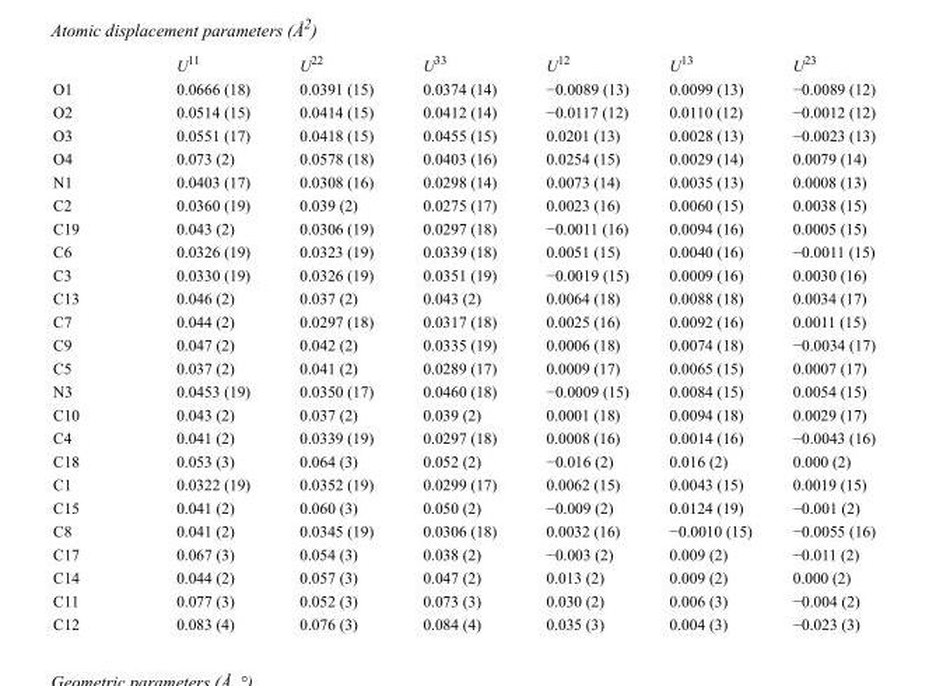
<table><thead><tr><td></td><td>U<sup>11</sup></td><td>U<sup>22</sup></td><td>U<sup>33</sup></td><td>U<sup>12</sup></td><td>U<sup>13</sup></td><td>U<sup>23</sup></td></tr></thead><tbody><tr><td>O1</td><td>0.0666 (18)</td><td>0.0391 (15)</td><td>0.0374 (14)</td><td>−0.0089 (13)</td><td>0.0099 (13)</td><td>−0.0089 (12)</td></tr><tr><td>O2</td><td>0.0514 (15)</td><td>0.0414 (15)</td><td>0.0412 (14)</td><td>−0.0117 (12)</td><td>0.0110 (12)</td><td>−0.0012 (12)</td></tr><tr><td>O3</td><td>0.0551 (17)</td><td>0.0418 (15)</td><td>0.0455 (15)</td><td>0.0201 (13)</td><td>0.0028 (13)</td><td>−0.0023 (13)</td></tr><tr><td>O4</td><td>0.073 (2)</td><td>0.0578 (18)</td><td>0.0403 (16)</td><td>0.0254 (15)</td><td>0.0029 (14)</td><td>0.0079 (14)</td></tr><tr><td>N1</td><td>0.0403 (17)</td><td>0.0308 (16)</td><td>0.0298 (14)</td><td>0.0073 (14)</td><td>0.0035 (13)</td><td>0.0008 (13)</td></tr><tr><td>C2</td><td>0.0360 (19)</td><td>0.039 (2)</td><td>0.0275 (17)</td><td>0.0023 (16)</td><td>0.0060 (15)</td><td>0.0038 (15)</td></tr><tr><td>C19</td><td>0.043 (2)</td><td>0.0306 (19)</td><td>0.0297 (18)</td><td>−0.0011 (16)</td><td>0.0094 (16)</td><td>0.0005 (15)</td></tr><tr><td>C6</td><td>0.0326 (19)</td><td>0.0323 (19)</td><td>0.0339 (18)</td><td>0.0051 (15)</td><td>0.0040 (16)</td><td>−0.0011 (15)</td></tr><tr><td>C3</td><td>0.0330 (19)</td><td>0.0326 (19)</td><td>0.0351 (19)</td><td>−0.0019 (15)</td><td>0.0009 (16)</td><td>0.0030 (16)</td></tr><tr><td>C13</td><td>0.046 (2)</td><td>0.037 (2)</td><td>0.043 (2)</td><td>0.0064 (18)</td><td>0.0088 (18)</td><td>0.0034 (17)</td></tr><tr><td>C7</td><td>0.044 (2)</td><td>0.0297 (18)</td><td>0.0317 (18)</td><td>0.0025 (16)</td><td>0.0092 (16)</td><td>0.0011 (15)</td></tr><tr><td>C9</td><td>0.047 (2)</td><td>0.042 (2)</td><td>0.0335 (19)</td><td>0.0006 (18)</td><td>0.0074 (18)</td><td>−0.0034 (17)</td></tr><tr><td>C5</td><td>0.037 (2)</td><td>0.041 (2)</td><td>0.0289 (17)</td><td>0.0009 (17)</td><td>0.0065 (15)</td><td>0.0007 (17)</td></tr><tr><td>N3</td><td>0.0453 (19)</td><td>0.0350 (17)</td><td>0.0460 (18)</td><td>−0.0009 (15)</td><td>0.0084 (15)</td><td>0.0054 (15)</td></tr><tr><td>C10</td><td>0.043 (2)</td><td>0.037 (2)</td><td>0.039 (2)</td><td>0.0001 (18)</td><td>0.0094 (18)</td><td>0.0029 (17)</td></tr><tr><td>C4</td><td>0.041 (2)</td><td>0.0339 (19)</td><td>0.0297 (18)</td><td>0.0008 (16)</td><td>0.0014 (16)</td><td>−0.0043 (16)</td></tr><tr><td>C18</td><td>0.053 (3)</td><td>0.064 (3)</td><td>0.052 (2)</td><td>−0.016 (2)</td><td>0.016 (2)</td><td>0.000 (2)</td></tr><tr><td>C1</td><td>0.0322 (19)</td><td>0.0352 (19)</td><td>0.0299 (17)</td><td>0.0062 (15)</td><td>0.0043 (15)</td><td>0.0019 (15)</td></tr><tr><td>C15</td><td>0.041 (2)</td><td>0.060 (3)</td><td>0.050 (2)</td><td>−0.009 (2)</td><td>0.0124 (19)</td><td>−0.001 (2)</td></tr><tr><td>C8</td><td>0.041 (2)</td><td>0.0345 (19)</td><td>0.0306 (18)</td><td>0.0032 (16)</td><td>−0.0010 (15)</td><td>−0.0055 (16)</td></tr><tr><td>C17</td><td>0.067 (3)</td><td>0.054 (3)</td><td>0.038 (2)</td><td>−0.003 (2)</td><td>0.009 (2)</td><td>−0.011 (2)</td></tr><tr><td>C14</td><td>0.044 (2)</td><td>0.057 (3)</td><td>0.047 (2)</td><td>0.013 (2)</td><td>0.009 (2)</td><td>0.000 (2)</td></tr><tr><td>C11</td><td>0.077 (3)</td><td>0.052 (3)</td><td>0.073 (3)</td><td>0.030 (2)</td><td>0.006 (3)</td><td>−0.004 (2)</td></tr><tr><td>C12</td><td>0.083 (4)</td><td>0.076 (3)</td><td>0.084 (4)</td><td>0.035 (3)</td><td>0.004 (3)</td><td>−0.023 (3)</td></tr></tbody></table>